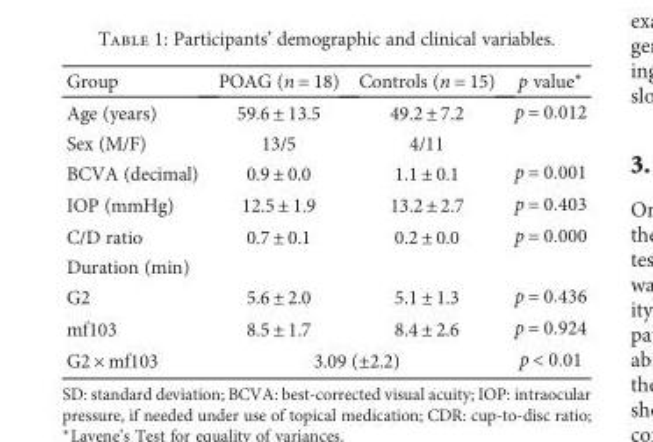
<table><thead><tr><td>Group</td><td>POAG (n = 18)</td><td>Controls (n = 15)</td><td>p value∗</td></tr></thead><tbody><tr><td>Age (years)</td><td>59.6 ± 13.5</td><td>49.2 ± 7.2</td><td>p = 0 012</td></tr><tr><td>Sex (M/F)</td><td>13/5</td><td>4/11</td><td></td></tr><tr><td>BCVA (decimal)</td><td>0.9 ± 0.0</td><td>1.1 ± 0.1</td><td>p = 0 001</td></tr><tr><td>IOP (mmHg)</td><td>12.5 ± 1.9</td><td>13.2 ± 2.7</td><td>p = 0 403</td></tr><tr><td>C/D ratio</td><td>0.7 ± 0.1</td><td>0.2 ± 0.0</td><td>p = 0 000</td></tr><tr><td colspan="4">Duration (min)</td></tr><tr><td>G2</td><td>5.6 ± 2.0</td><td>5.1 ± 1.3</td><td>p = 0 436</td></tr><tr><td>mf103</td><td>8.5 ± 1.7</td><td>8.4 ± 2.6</td><td>p = 0 924</td></tr><tr><td>G2 × mf103</td><td colspan="2">3.09 (±2.2)</td><td>p &lt; 0 01</td></tr></tbody></table>